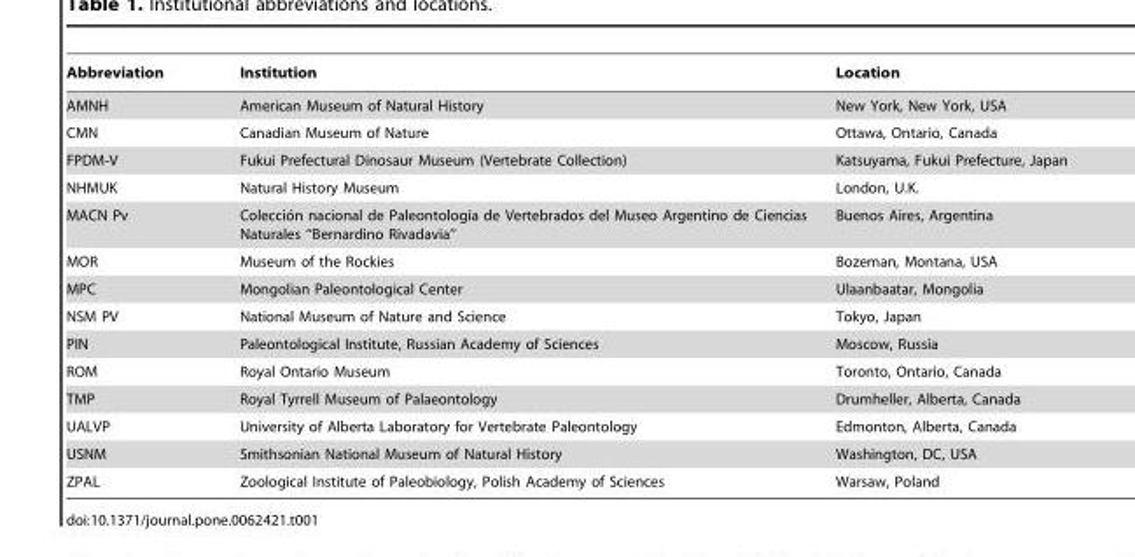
<table><thead><tr><td>Abbreviation</td><td>Institution</td><td>Location</td></tr></thead><tbody><tr><td>AMNH</td><td>American Museum of Natural History</td><td>New York, New York, USA</td></tr><tr><td>CMN</td><td>Canadian Museum of Nature</td><td>Ottawa, Ontario, Canada</td></tr><tr><td>FPDM-V</td><td>Fukui Prefectural Dinosaur Museum (Vertebrate Collection)</td><td>Katsuyama, Fukui Prefecture, Japan</td></tr><tr><td>NHMUK</td><td>Natural History Museum</td><td>London, U.K.</td></tr><tr><td>MACN Pv</td><td>Coleccio´n nacional de Paleontologı´a de Vertebrados del Museo Argentino de Ciencias Naturales ‘‘Bernardino Rivadavia’’</td><td>Buenos Aires, Argentina</td></tr><tr><td>MOR</td><td>Museum of the Rockies</td><td>Bozeman, Montana, USA</td></tr><tr><td>MPC</td><td>Mongolian Paleontological Center</td><td>Ulaanbaatar, Mongolia</td></tr><tr><td>NSM PV</td><td>National Museum of Nature and Science</td><td>Tokyo, Japan</td></tr><tr><td>PIN</td><td>Paleontological Institute, Russian Academy of Sciences</td><td>Moscow, Russia</td></tr><tr><td>ROM</td><td>Royal Ontario Museum</td><td>Toronto, Ontario, Canada</td></tr><tr><td>TMP</td><td>Royal Tyrrell Museum of Palaeontology</td><td>Drumheller, Alberta, Canada</td></tr><tr><td>UALVP</td><td>University of Alberta Laboratory for Vertebrate Paleontology</td><td>Edmonton, Alberta, Canada</td></tr><tr><td>USNM</td><td>Smithsonian National Museum of Natural History</td><td>Washington, DC, USA</td></tr><tr><td>ZPAL</td><td>Zoological Institute of Paleobiology, Polish Academy of Sciences</td><td>Warsaw, Poland</td></tr></tbody></table>